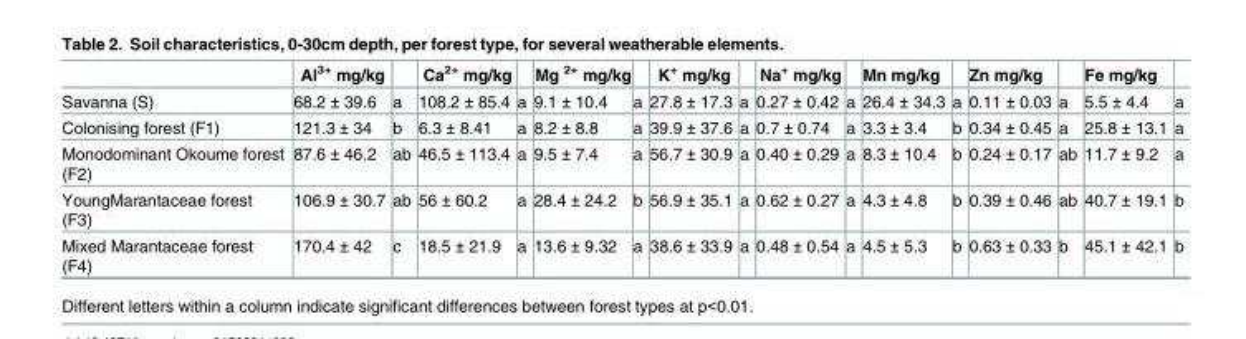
<table><thead><tr><td></td><td>Al<sup>3+</sup> mg/kg</td><td></td><td>Ca<sup>2+</sup> mg/kg</td><td></td><td>Mg <sup>2+</sup> mg/kg</td><td></td><td>K<sup>+</sup> mg/kg</td><td></td><td>Na<sup>+</sup> mg/kg</td><td></td><td>Mn mg/kg</td><td></td><td>Zn mg/kg</td><td></td><td>Fe mg/kg</td><td></td></tr></thead><tbody><tr><td>Savanna (S)</td><td>68.2 ± 39.6</td><td>a</td><td>108.2 ± 85.4</td><td>a</td><td>9.1 ± 10.4</td><td>a</td><td>27.8 ± 17.3</td><td>a</td><td>0.27 ± 0.42</td><td>a</td><td>26.4 ± 34.3</td><td>a</td><td>0.11 ± 0.03</td><td>a</td><td>5.5 ± 4.4</td><td>a</td></tr><tr><td>Colonising forest (F1)</td><td>121.3 ± 34</td><td>b</td><td>6.3 ± 8.41</td><td>a</td><td>8.2 ± 8.8</td><td>a</td><td>39.9 ± 37.6</td><td>a</td><td>0.7 ± 0.74</td><td>a</td><td>3.3 ± 3.4</td><td>b</td><td>0.34 ± 0.45</td><td>a</td><td>25.8 ± 13.1</td><td>a</td></tr><tr><td>Monodominant Okoume forest (F2)</td><td>87.6 ± 46.2</td><td>ab</td><td>46.5 ± 113.4</td><td>a</td><td>9.5 ± 7.4</td><td>a</td><td>56.7 ± 30.9</td><td>a</td><td>0.40 ± 0.29</td><td>a</td><td>8.3 ± 10.4</td><td>b</td><td>0.24 ± 0.17</td><td>ab</td><td>11.7 ± 9.2</td><td>a</td></tr><tr><td>YoungMarantaceae forest (F3)</td><td>106.9 ± 30.7</td><td>ab</td><td>56 ± 60.2</td><td>a</td><td>28.4 ± 24.2</td><td>b</td><td>56.9 ± 35.1</td><td>a</td><td>0.62 ± 0.27</td><td>a</td><td>4.3 ± 4.8</td><td>b</td><td>0.39 ± 0.46</td><td>ab</td><td>40.7 ± 19.1</td><td>b</td></tr><tr><td>Mixed Marantaceae forest (F4)</td><td>170.4 ± 42</td><td>c</td><td>18.5 ± 21.9</td><td>a</td><td>13.6 ± 9.32</td><td>a</td><td>38.6 ± 33.9</td><td>a</td><td>0.48 ± 0.54</td><td>a</td><td>4.5 ± 5.3</td><td>b</td><td>0.63 ± 0.33</td><td>b</td><td>45.1 ± 42.1</td><td>b</td></tr></tbody></table>